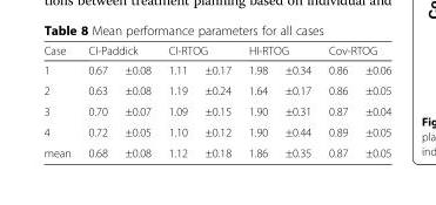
<table><thead><tr><td rowspan="2">Case 1</td><td colspan="2">CI-Paddick</td><td colspan="2">CI-RTOG</td><td colspan="2">HI-RTOG</td><td colspan="2">Cov-RTOG</td></tr><tr><td>0.67</td><td>±0.08</td><td>1.11</td><td>±0.17</td><td>1.98</td><td>±0.34</td><td>0.86</td><td>±0.06</td></tr></thead><tbody><tr><td>2</td><td>0.63</td><td>±0.08</td><td>1.19</td><td>±0.24</td><td>1.64</td><td>±0.17</td><td>0.86</td><td>±0.05</td></tr><tr><td>3</td><td>0.70</td><td>±0.07</td><td>1.09</td><td>±0.15</td><td>1.90</td><td>±0.31</td><td>0.87</td><td>±0.04</td></tr><tr><td>4</td><td>0.72</td><td>±0.05</td><td>1.10</td><td>±0.12</td><td>1.90</td><td>±0.44</td><td>0.89</td><td>±0.05</td></tr><tr><td>mean</td><td>0.68</td><td>±0.08</td><td>1.12</td><td>±0.18</td><td>1.86</td><td>±0.35</td><td>0.87</td><td>±0.05</td></tr></tbody></table>